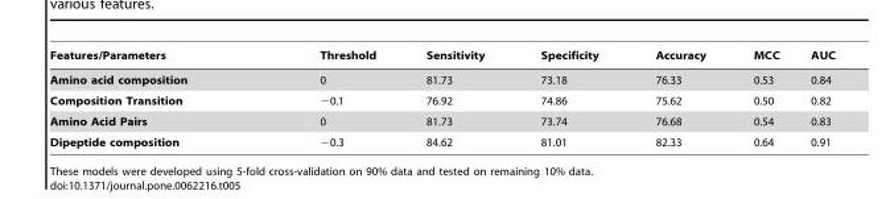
<table><thead><tr><td>Features/Parameters</td><td>Threshold</td><td>Sensitivity</td><td>Specificity</td><td>Accuracy</td><td>MCC</td><td>AUC</td></tr></thead><tbody><tr><td>Amino acid composition</td><td>0</td><td>81.73</td><td>73.18</td><td>76.33</td><td>0.53</td><td>0.84</td></tr><tr><td>Composition Transition</td><td>−0.1</td><td>76.92</td><td>74.86</td><td>75.62</td><td>0.50</td><td>0.82</td></tr><tr><td>Amino Acid Pairs</td><td>0</td><td>81.73</td><td>73.74</td><td>76.68</td><td>0.54</td><td>0.83</td></tr><tr><td>Dipeptide composition</td><td>−0.3</td><td>84.62</td><td>81.01</td><td>82.33</td><td>0.64</td><td>0.91</td></tr></tbody></table>